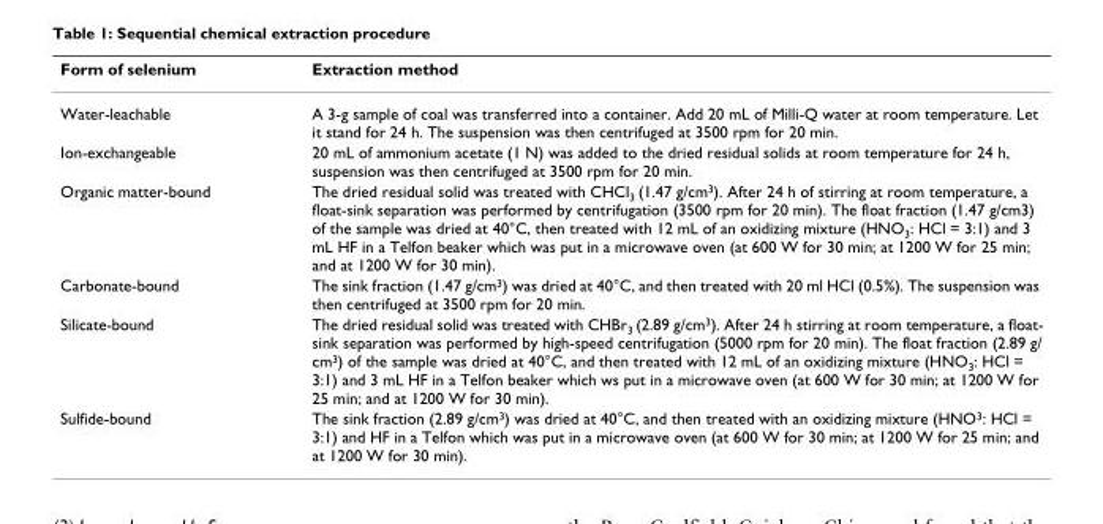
<table><thead><tr><td>Form of selenium</td><td>Extraction method</td></tr></thead><tbody><tr><td>Water-leachable</td><td>A 3-g sample of coal was transferred into a container. Add 20 mL of Milli-Q water at room temperature. Let it stand for 24 h. The suspension was then centrifuged at 3500 rpm for 20 min.</td></tr><tr><td>Ion-exchangeable</td><td>20 mL of ammonium acetate (1 N) was added to the dried residual solids at room temperature for 24 h, suspension was then centrifuged at 3500 rpm for 20 min.</td></tr><tr><td>Organic matter-bound</td><td>The dried residual solid was treated with CHCl<sub>3</sub> (1.47 g/cm<sup>3</sup>). After 24 h of stirring at room temperature, a float-sink separation was performed by centrifugation (3500 rpm for 20 min). The float fraction (1.47 g/cm3) of the sample was dried at 40°C, then treated with 12 mL of an oxidizing mixture (HNO<sub>3</sub>: HCl = 3:1) and 3 mL HF in a Telfon beaker which was put in a microwave oven (at 600 W for 30 min; at 1200 W for 25 min; and at 1200 W for 30 min).</td></tr><tr><td>Carbonate-bound</td><td>The sink fraction (1.47 g/cm<sup>3</sup>) was dried at 40°C, and then treated with 20 ml HCl (0.5%). The suspension was then centrifuged at 3500 rpm for 20 min.</td></tr><tr><td>Silicate-bound</td><td>The dried residual solid was treated with CHBr<sub>3</sub> (2.89 g/cm<sup>3</sup>). After 24 h stirring at room temperature, a float- sink separation was performed by high-speed centrifugation (5000 rpm for 20 min). The float fraction (2.89 g/ cm<sup>3</sup>) of the sample was dried at 40°C, and then treated with 12 mL of an oxidizing mixture (HNO<sub>3</sub>: HCl = 3:1) and 3 mL HF in a Telfon beaker which ws put in a microwave oven (at 600 W for 30 min; at 1200 W for 25 min; and at 1200 W for 30 min).</td></tr><tr><td>Sulfide-bound</td><td>The sink fraction (2.89 g/cm<sup>3</sup>) was dried at 40°C, and then treated with an oxidizing mixture (HNO<sup>3</sup>: HCl = 3:1) and HF in a Telfon which was put in a microwave oven (at 600 W for 30 min; at 1200 W for 25 min; and at 1200 W for 30 min).</td></tr></tbody></table>